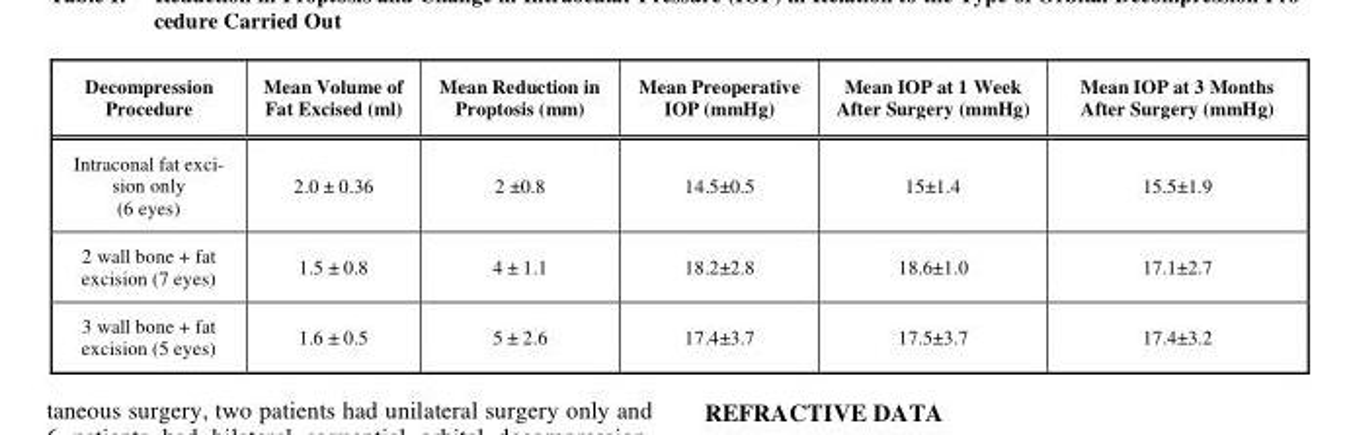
<table><thead><tr><td>Decompression Procedure</td><td>Mean Volume of Fat Excised (ml)</td><td>Mean Reduction in Proptosis (mm)</td><td>Mean Preoperative IOP (mmHg)</td><td>Mean IOP at 1 Week After Surgery (mmHg)</td><td>Mean IOP at 3 Months After Surgery (mmHg)</td></tr></thead><tbody><tr><td>Intraconal fat exci- sion only (6 eyes)</td><td>2.0 ± 0.36</td><td>2 ±0.8</td><td>14.5±0.5</td><td>15±1.4</td><td>15.5±1.9</td></tr><tr><td>2 wall bone + fat excision (7 eyes)</td><td>1.5 ± 0.8</td><td>4 ± 1.1</td><td>18.2±2.8</td><td>18.6±1.0</td><td>17.1±2.7</td></tr><tr><td>3 wall bone + fat excision (5 eyes)</td><td>1.6 ± 0.5</td><td>5 ± 2.6</td><td>17.4±3.7</td><td>17.5±3.7</td><td>17.4±3.2</td></tr></tbody></table>